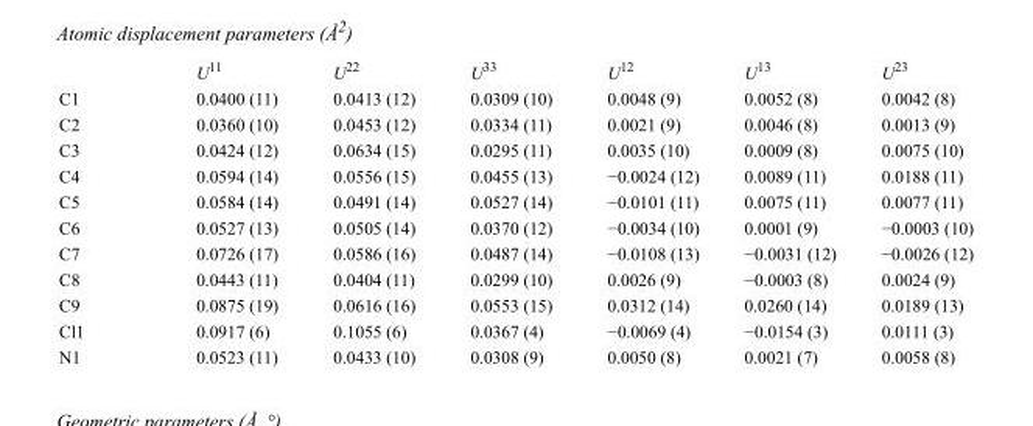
<table><thead><tr><td></td><td>U<sup>11</sup></td><td>U<sup>22</sup></td><td>U<sup>33</sup></td><td>U<sup>12</sup></td><td>U<sup>13</sup></td><td>U<sup>23</sup></td></tr></thead><tbody><tr><td>C1</td><td>0.0400 (11)</td><td>0.0413 (12)</td><td>0.0309 (10)</td><td>0.0048 (9)</td><td>0.0052 (8)</td><td>0.0042 (8)</td></tr><tr><td>C2</td><td>0.0360 (10)</td><td>0.0453 (12)</td><td>0.0334 (11)</td><td>0.0021 (9)</td><td>0.0046 (8)</td><td>0.0013 (9)</td></tr><tr><td>C3</td><td>0.0424 (12)</td><td>0.0634 (15)</td><td>0.0295 (11)</td><td>0.0035 (10)</td><td>0.0009 (8)</td><td>0.0075 (10)</td></tr><tr><td>C4</td><td>0.0594 (14)</td><td>0.0556 (15)</td><td>0.0455 (13)</td><td>−0.0024 (12)</td><td>0.0089 (11)</td><td>0.0188 (11)</td></tr><tr><td>C5</td><td>0.0584 (14)</td><td>0.0491 (14)</td><td>0.0527 (14)</td><td>−0.0101 (11)</td><td>0.0075 (11)</td><td>0.0077 (11)</td></tr><tr><td>C6</td><td>0.0527 (13)</td><td>0.0505 (14)</td><td>0.0370 (12)</td><td>−0.0034 (10)</td><td>0.0001 (9)</td><td>−0.0003 (10)</td></tr><tr><td>C7</td><td>0.0726 (17)</td><td>0.0586 (16)</td><td>0.0487 (14)</td><td>−0.0108 (13)</td><td>−0.0031 (12)</td><td>−0.0026 (12)</td></tr><tr><td>C8</td><td>0.0443 (11)</td><td>0.0404 (11)</td><td>0.0299 (10)</td><td>0.0026 (9)</td><td>−0.0003 (8)</td><td>0.0024 (9)</td></tr><tr><td>C9</td><td>0.0875 (19)</td><td>0.0616 (16)</td><td>0.0553 (15)</td><td>0.0312 (14)</td><td>0.0260 (14)</td><td>0.0189 (13)</td></tr><tr><td>Cl1</td><td>0.0917 (6)</td><td>0.1055 (6)</td><td>0.0367 (4)</td><td>−0.0069 (4)</td><td>−0.0154 (3)</td><td>0.0111 (3)</td></tr><tr><td>N1</td><td>0.0523 (11)</td><td>0.0433 (10)</td><td>0.0308 (9)</td><td>0.0050 (8)</td><td>0.0021 (7)</td><td>0.0058 (8)</td></tr></tbody></table>